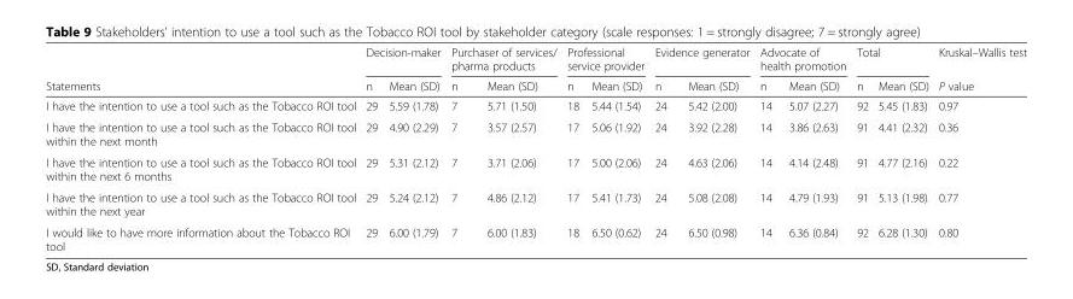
<table><thead><tr><td rowspan="2">Statements</td><td colspan="2">Decision-maker</td><td colspan="2">Purchaser of services/ pharma products</td><td colspan="2">Professional service provider</td><td colspan="2">Evidence generator</td><td colspan="2">Advocate of health promotion</td><td colspan="2">Total</td><td rowspan="2">Kruskal–Wallis test P value</td></tr><tr><td>n</td><td>Mean (SD)</td><td>n</td><td>Mean (SD)</td><td>n</td><td>Mean (SD)</td><td>n</td><td>Mean (SD)</td><td>n</td><td>Mean (SD)</td><td>n</td><td>Mean (SD)</td></tr></thead><tbody><tr><td>I have the intention to use a tool such as the Tobacco ROI tool</td><td>29</td><td>5.59 (1.78)</td><td>7</td><td>5.71 (1.50)</td><td>18</td><td>5.44 (1.54)</td><td>24</td><td>5.42 (2.00)</td><td>14</td><td>5.07 (2.27)</td><td>92</td><td>5.45 (1.83)</td><td>0.97</td></tr><tr><td>I have the intention to use a tool such as the Tobacco ROI tool within the next month</td><td>29</td><td>4.90 (2.29)</td><td>7</td><td>3.57 (2.57)</td><td>17</td><td>5.06 (1.92)</td><td>24</td><td>3.92 (2.28)</td><td>14</td><td>3.86 (2.63)</td><td>91</td><td>4.41 (2.32)</td><td>0.36</td></tr><tr><td>I have the intention to use a tool such as the Tobacco ROI tool within the next 6 months</td><td>29</td><td>5.31 (2.12)</td><td>7</td><td>3.71 (2.06)</td><td>17</td><td>5.00 (2.06)</td><td>24</td><td>4.63 (2.06)</td><td>14</td><td>4.14 (2.48)</td><td>91</td><td>4.77 (2.16)</td><td>0.22</td></tr><tr><td>I have the intention to use a tool such as the Tobacco ROI tool within the next year</td><td>29</td><td>5.24 (2.12)</td><td>7</td><td>4.86 (2.12)</td><td>17</td><td>5.41 (1.73)</td><td>24</td><td>5.08 (2.08)</td><td>14</td><td>4.79 (1.93)</td><td>91</td><td>5.13 (1.98)</td><td>0.77</td></tr><tr><td>I would like to have more information about the Tobacco ROI tool</td><td>29</td><td>6.00 (1.79)</td><td>7</td><td>6.00 (1.83)</td><td>18</td><td>6.50 (0.62)</td><td>24</td><td>6.50 (0.98)</td><td>14</td><td>6.36 (0.84)</td><td>92</td><td>6.28 (1.30)</td><td>0.80</td></tr></tbody></table>